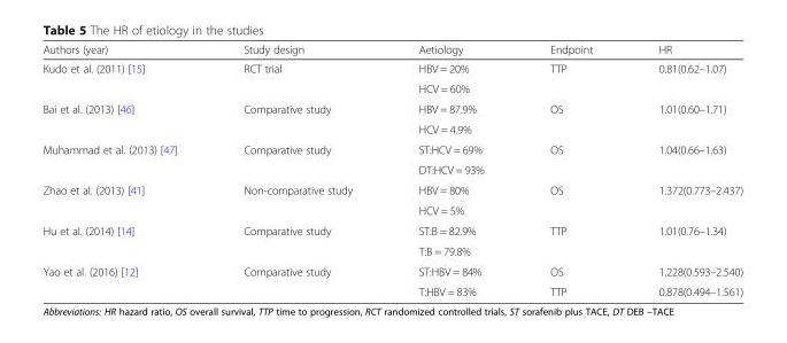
<table><thead><tr><td>Authors (year)</td><td>Study design</td><td>Aetiology</td><td>Endpoint</td><td>HR</td></tr></thead><tbody><tr><td rowspan="2">Kudo et al. (2011) [15]</td><td>RCT trial</td><td>HBV = 20%</td><td>TTP</td><td>0.81(0.62–1.07)</td></tr><tr><td></td><td>HCV = 60%</td><td></td><td></td></tr><tr><td rowspan="2">Bai et al. (2013) [46]</td><td>Comparative study</td><td>HBV = 87.9%</td><td>OS</td><td>1.01(0.60–1.71)</td></tr><tr><td></td><td>HCV = 4.9%</td><td></td><td></td></tr><tr><td rowspan="2">Muhammad et al. (2013) [47]</td><td>Comparative study</td><td>ST:HCV = 69%</td><td>OS</td><td>1.04(0.66–1.63)</td></tr><tr><td></td><td>DT:HCV = 93%</td><td></td><td></td></tr><tr><td rowspan="2">Zhao et al. (2013) [41]</td><td>Non-comparative study</td><td>HBV = 80%</td><td>OS</td><td>1.372(0.773–2.437)</td></tr><tr><td></td><td>HCV = 5%</td><td></td><td></td></tr><tr><td rowspan="2">Hu et al. (2014) [14]</td><td>Comparative study</td><td>ST:B = 82.9%</td><td>TTP</td><td>1.01(0.76–1.34)</td></tr><tr><td></td><td>T:B = 79.8%</td><td></td><td></td></tr><tr><td rowspan="2">Yao et al. (2016) [12]</td><td>Comparative study</td><td>ST:HBV = 84%</td><td>OS</td><td>1.228(0.593–2.540)</td></tr><tr><td></td><td>T:HBV = 83%</td><td>TTP</td><td>0.878(0.494–1.561)</td></tr></tbody></table>